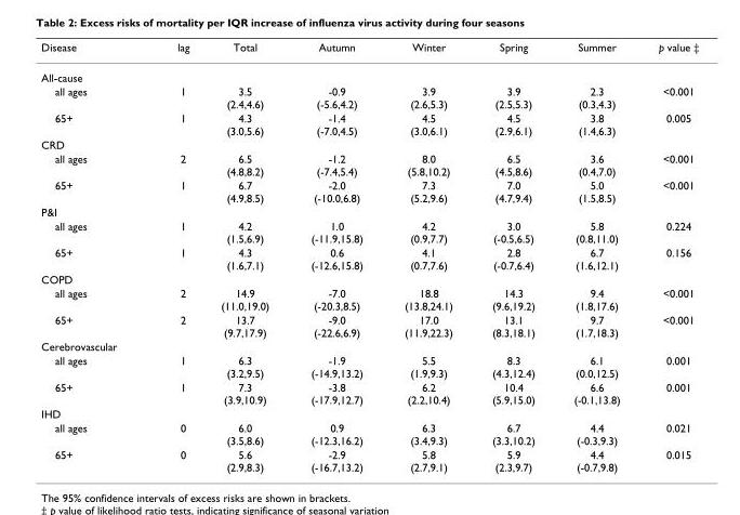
<table><thead><tr><td>Disease</td><td>lag</td><td>Total</td><td>Autumn</td><td>Winter</td><td>Spring</td><td>Summer</td><td>p value ‡</td></tr></thead><tbody><tr><td colspan="8">All-cause</td></tr><tr><td>all ages</td><td>1</td><td>3.5 (2.4,4.6)</td><td>-0.9 (-5.6,4.2)</td><td>3.9 (2.6,5.3)</td><td>3.9 (2.5,5.3)</td><td>2.3 (0.3,4.3)</td><td>&lt;0.001</td></tr><tr><td>65+</td><td>1</td><td>4.3 (3.0,5.6)</td><td>-1.4 (-7.0,4.5)</td><td>4.5 (3.0,6.1)</td><td>4.5 (2.9,6.1)</td><td>3.8 (1.4,6.3)</td><td>0.005</td></tr><tr><td colspan="8">CRD</td></tr><tr><td>all ages</td><td>2</td><td>6.5 (4.8,8.2)</td><td>-1.2 (-7.4,5.4)</td><td>8.0 (5.8,10.2)</td><td>6.5 (4.5,8.6)</td><td>3.6 (0.4,7.0)</td><td>&lt;0.001</td></tr><tr><td>65+</td><td>1</td><td>6.7 (4.9,8.5)</td><td>-2.0 (-10.0,6.8)</td><td>7.3 (5.2,9.6)</td><td>7.0 (4.7,9.4)</td><td>5.0 (1.5,8.5)</td><td>&lt;0.001</td></tr><tr><td colspan="8">P&amp;I</td></tr><tr><td>all ages</td><td>1</td><td>4.2 (1.5,6.9)</td><td>1.0 (-11.9,15.8)</td><td>4.2 (0.9,7.7)</td><td>3.0 (-0.5,6.5)</td><td>5.8 (0.8,11.0)</td><td>0.224</td></tr><tr><td>65+</td><td>1</td><td>4.3 (1.6,7.1)</td><td>0.6 (-12.6,15.8)</td><td>4.1 (0.7,7.6)</td><td>2.8 (-0.7,6.4)</td><td>6.7 (1.6,12.1)</td><td>0.156</td></tr><tr><td colspan="8">COPD</td></tr><tr><td>all ages</td><td>2</td><td>14.9 (11.0,19.0)</td><td>-7.0 (-20.3,8.5)</td><td>18.8 (13.8,24.1)</td><td>14.3 (9.6,19.2)</td><td>9.4 (1.8,17.6)</td><td>&lt;0.001</td></tr><tr><td>65+</td><td>2</td><td>13.7 (9.7,17.9)</td><td>-9.0 (-22.6,6.9)</td><td>17.0 (11.9,22.3)</td><td>13.1 (8.3,18.1)</td><td>9.7 (1.7,18.3)</td><td>&lt;0.001</td></tr><tr><td colspan="8">Cerebrovascular</td></tr><tr><td>all ages</td><td>1</td><td>6.3 (3.2,9.5)</td><td>-1.9 (-14.9,13.2)</td><td>5.5 (1.9,9.3)</td><td>8.3 (4.3,12.4)</td><td>6.1 (0.0,12.5)</td><td>0.001</td></tr><tr><td>65+</td><td>1</td><td>7.3 (3.9,10.9)</td><td>-3.8 (-17.9,12.7)</td><td>6.2 (2.2,10.4)</td><td>10.4 (5.9,15.0)</td><td>6.6 (-0.1,13.8)</td><td>0.001</td></tr><tr><td colspan="8">IHD</td></tr><tr><td>all ages</td><td>0</td><td>6.0 (3.5,8.6)</td><td>0.9 (-12.3,16.2)</td><td>6.3 (3.4,9.3)</td><td>6.7 (3.3,10.2)</td><td>4.4 (-0.3,9.3)</td><td>0.021</td></tr><tr><td>65+</td><td>0</td><td>5.6 (2.9,8.3)</td><td>-2.9 (-16.7,13.2)</td><td>5.8 (2.7,9.1)</td><td>5.9 (2.3,9.7)</td><td>4.4 (-0.7,9.8)</td><td>0.015</td></tr></tbody></table>